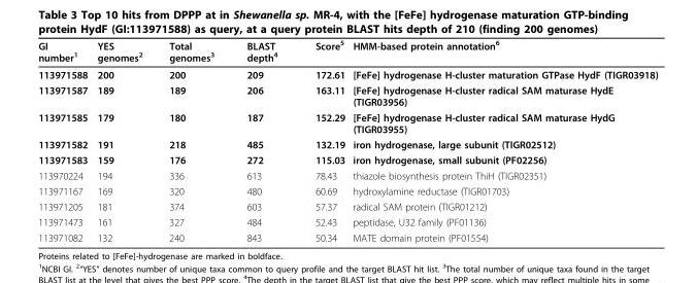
<table><thead><tr><td>GI number<sup>1</sup></td><td>YES genomes<sup>2</sup></td><td>Total genomes<sup>3</sup></td><td>BLAST depth<sup>4</sup></td><td>Score<sup>5</sup></td><td>HMM-based protein annotation<sup>6</sup></td></tr></thead><tbody><tr><td>113971588</td><td>200</td><td>200</td><td>209</td><td>172.61</td><td>[FeFe] hydrogenase H-cluster maturation GTPase HydF (TIGR03918)</td></tr><tr><td>113971587</td><td>189</td><td>189</td><td>206</td><td>163.11</td><td>[FeFe] hydrogenase H-cluster radical SAM maturase HydE (TIGR03956)</td></tr><tr><td>113971585</td><td>179</td><td>180</td><td>187</td><td>152.29</td><td>[FeFe] hydrogenase H-cluster radical SAM maturase HydG (TIGR03955)</td></tr><tr><td>113971582</td><td>191</td><td>218</td><td>485</td><td>132.19</td><td>iron hydrogenase, large subunit (TIGR02512)</td></tr><tr><td>113971583</td><td>159</td><td>176</td><td>272</td><td>115.03</td><td>iron hydrogenase, small subunit (PF02256)</td></tr><tr><td>113970224</td><td>194</td><td>336</td><td>613</td><td>78.43</td><td>thiazole biosynthesis protein ThiH (TIGR02351)</td></tr><tr><td>113971167</td><td>169</td><td>320</td><td>480</td><td>60.69</td><td>hydroxylamine reductase (TIGR01703)</td></tr><tr><td>113971205</td><td>181</td><td>374</td><td>603</td><td>57.37</td><td>radical SAM protein (TIGR01212)</td></tr><tr><td>113971473</td><td>161</td><td>327</td><td>484</td><td>52.43</td><td>peptidase, U32 family (PF01136)</td></tr><tr><td>113971082</td><td>132</td><td>240</td><td>843</td><td>50.34</td><td>MATE domain protein (PF01554)</td></tr></tbody></table>